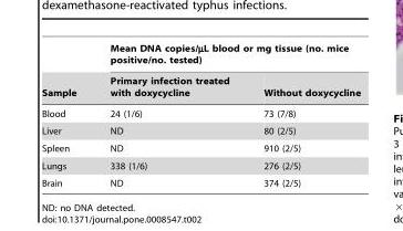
<table><thead><tr><td rowspan="2">Sample</td><td colspan="2">Mean DNA copies/µL blood or mg tissue (no. mice positive/no. tested)</td></tr><tr><td>Primary infection treated with doxycycline</td><td>Without doxycycline</td></tr></thead><tbody><tr><td>Blood</td><td>24 (1/6)</td><td>73 (7/8)</td></tr><tr><td>Liver</td><td>ND</td><td>80 (2/5)</td></tr><tr><td>Spleen</td><td>ND</td><td>910 (2/5)</td></tr><tr><td>Lungs</td><td>338 (1/6)</td><td>276 (2/5)</td></tr><tr><td>Brain</td><td>ND</td><td>374 (2/5)</td></tr></tbody></table>